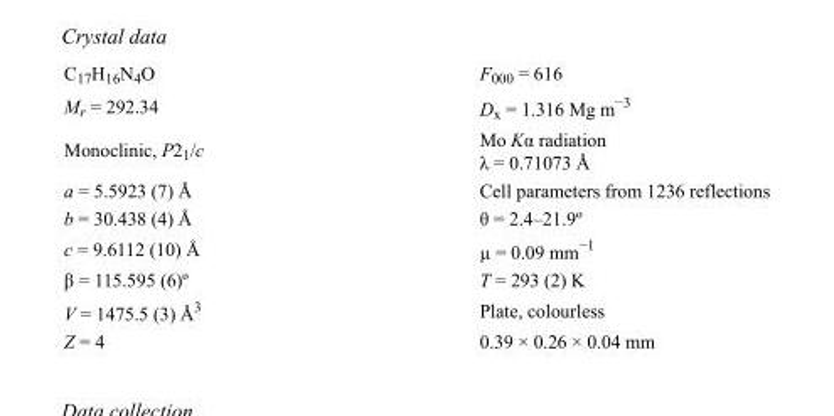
<table><tbody><tr><td>C<sub>17</sub>H<sub>16</sub>N<sub>4</sub>O</td><td>F<sub>000</sub> = 616</td></tr><tr><td>M<sub>r</sub> = 292.34</td><td>D<sub>x</sub> = 1.316 Mg m<sup>−3</sup></td></tr><tr><td>Monoclinic, P2<sub>1</sub>/c</td><td>Mo Kα radiation λ = 0.71073 Å</td></tr><tr><td>a = 5.5923 (7) Å</td><td>Cell parameters from 1236 reflections</td></tr><tr><td>b = 30.438 (4) Å</td><td>θ = 2.4–21.9º</td></tr><tr><td>c = 9.6112 (10) Å</td><td>µ = 0.09 mm<sup>−1</sup></td></tr><tr><td>β = 115.595 (6)º</td><td>T = 293 (2) K</td></tr><tr><td>V = 1475.5 (3) Å<sup>3</sup></td><td>Plate, colourless</td></tr><tr><td>Z = 4</td><td>0.39 × 0.26 × 0.04 mm</td></tr></tbody></table>